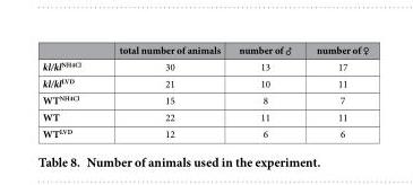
<table><thead><tr><td></td><td>total number of animals</td><td>number of ♂</td><td>number of ♀</td></tr></thead><tbody><tr><td>kl/kl<sup>NH4Cl</sup></td><td>30</td><td>13</td><td>17</td></tr><tr><td>kl/kl<sup>LVD</sup></td><td>21</td><td>10</td><td>11</td></tr><tr><td>WT<sup>NH4Cl</sup></td><td>15</td><td>8</td><td>7</td></tr><tr><td>WT</td><td>22</td><td>11</td><td>11</td></tr><tr><td>WT<sup>LVD</sup></td><td>12</td><td>6</td><td>6</td></tr></tbody></table>